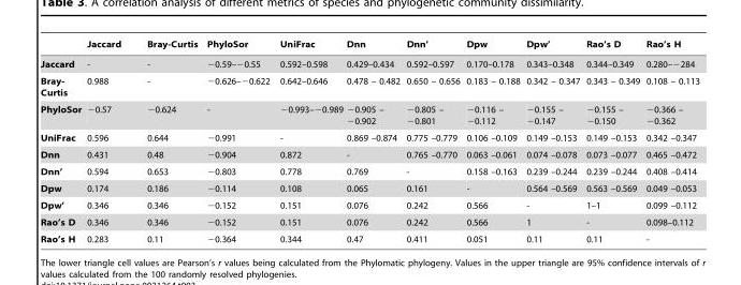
<table><thead><tr><td></td><td>Jaccard</td><td>Bray-Curtis</td><td>PhyloSor</td><td>UniFrac</td><td>Dnn</td><td>Dnn’</td><td>Dpw</td><td>Dpw’</td><td>Rao’s D</td><td>Rao’s H</td></tr></thead><tbody><tr><td>Jaccard</td><td>-</td><td>-</td><td>−0.59–−0.55</td><td>0.592–0.598</td><td>0.429–0.434</td><td>0.592–0.597</td><td>0.170–0.178</td><td>0.343–0.348</td><td>0.344–0.349</td><td>0.280–−284</td></tr><tr><td>Bray- Curtis</td><td>0.988</td><td>-</td><td>−0.626–−0.622</td><td>0.642–0.646</td><td>0.478 – 0.482</td><td>0.650 – 0.656</td><td>0.183 – 0.188</td><td>0.342 – 0.347</td><td>0.343 – 0.349</td><td>0.108 – 0.113</td></tr><tr><td>PhyloSor</td><td>−0.57</td><td>−0.624</td><td>-</td><td>−0.993–−0.989</td><td>−0.905 – −0.902</td><td>−0.805 – −0.801</td><td>−0.116 – −0.112</td><td>−0.155 – −0.147</td><td>−0.155 – −0.150</td><td>−0.366 – −0.362</td></tr><tr><td>UniFrac</td><td>0.596</td><td>0.644</td><td>−0.991</td><td>-</td><td>0.869 –0.874</td><td>0.775 –0.779</td><td>0.106 –0.109</td><td>0.149 –0.153</td><td>0.149 –0.153</td><td>0.342 –0.347</td></tr><tr><td>Dnn</td><td>0.431</td><td>0.48</td><td>−0.904</td><td>0.872</td><td>-</td><td>0.765 –0.770</td><td>0.063 –0.061</td><td>0.074 –0.078</td><td>0.073 –0.077</td><td>0.465 –0.472</td></tr><tr><td>Dnn’</td><td>0.594</td><td>0.653</td><td>−0.803</td><td>0.778</td><td>0.769</td><td>-</td><td>0.158 –0.163</td><td>0.239 –0.244</td><td>0.239 –0.244</td><td>0.408 –0.414</td></tr><tr><td>Dpw</td><td>0.174</td><td>0.186</td><td>−0.114</td><td>0.108</td><td>0.065</td><td>0.161</td><td>-</td><td>0.564 –0.569</td><td>0.563 –0.569</td><td>0.049 –0.053</td></tr><tr><td>Dpw’</td><td>0.346</td><td>0.346</td><td>−0.152</td><td>0.151</td><td>0.076</td><td>0.242</td><td>0.566</td><td>-</td><td>1–1</td><td>0.099 –0.112</td></tr><tr><td>Rao’s D</td><td>0.346</td><td>0.346</td><td>−0.152</td><td>0.151</td><td>0.076</td><td>0.242</td><td>0.566</td><td>1</td><td>-</td><td>0.098–0.112</td></tr><tr><td>Rao’s H</td><td>0.283</td><td>0.11</td><td>−0.364</td><td>0.344</td><td>0.47</td><td>0.411</td><td>0.051</td><td>0.11</td><td>0.11</td><td>-</td></tr></tbody></table>